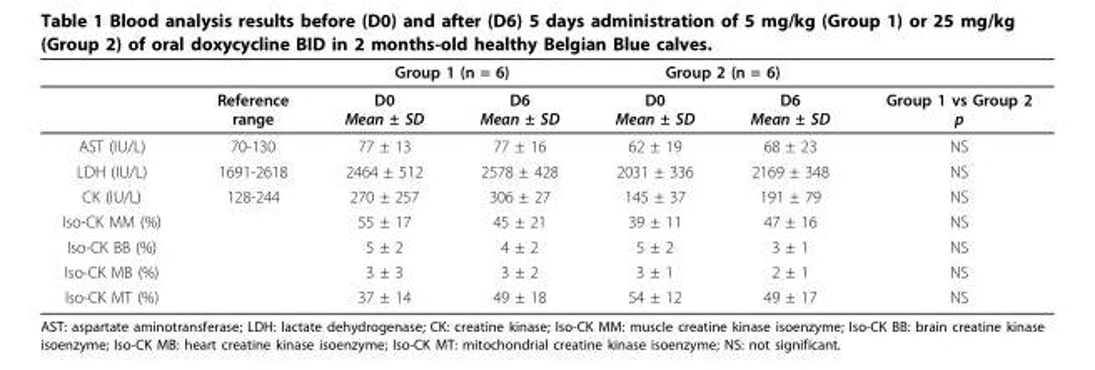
<table><thead><tr><td rowspan="2"></td><td rowspan="2">Reference range</td><td colspan="2">Group 1 (n = 6)</td><td colspan="2">Group 2 (n = 6)</td><td rowspan="2">Group 1 vs Group 2 p</td></tr><tr><td>D0 Mean ± SD</td><td>D6 Mean ± SD</td><td>D0 Mean ± SD</td><td>D6 Mean ± SD</td></tr></thead><tbody><tr><td>AST (IU/L)</td><td>70-130</td><td>77 ± 13</td><td>77 ± 16</td><td>62 ± 19</td><td>68 ± 23</td><td>NS</td></tr><tr><td>LDH (IU/L)</td><td>1691-2618</td><td>2464 ± 512</td><td>2578 ± 428</td><td>2031 ± 336</td><td>2169 ± 348</td><td>NS</td></tr><tr><td>CK (IU/L)</td><td>128-244</td><td>270 ± 257</td><td>306 ± 27</td><td>145 ± 37</td><td>191 ± 79</td><td>NS</td></tr><tr><td>Iso-CK MM (%)</td><td></td><td>55 ± 17</td><td>45 ± 21</td><td>39 ± 11</td><td>47 ± 16</td><td>NS</td></tr><tr><td>Iso-CK BB (%)</td><td></td><td>5 ± 2</td><td>4 ± 2</td><td>5 ± 2</td><td>3 ± 1</td><td>NS</td></tr><tr><td>Iso-CK MB (%)</td><td></td><td>3 ± 3</td><td>3 ± 2</td><td>3 ± 1</td><td>2 ± 1</td><td>NS</td></tr><tr><td>Iso-CK MT (%)</td><td></td><td>37 ± 14</td><td>49 ± 18</td><td>54 ± 12</td><td>49 ± 17</td><td>NS</td></tr></tbody></table>